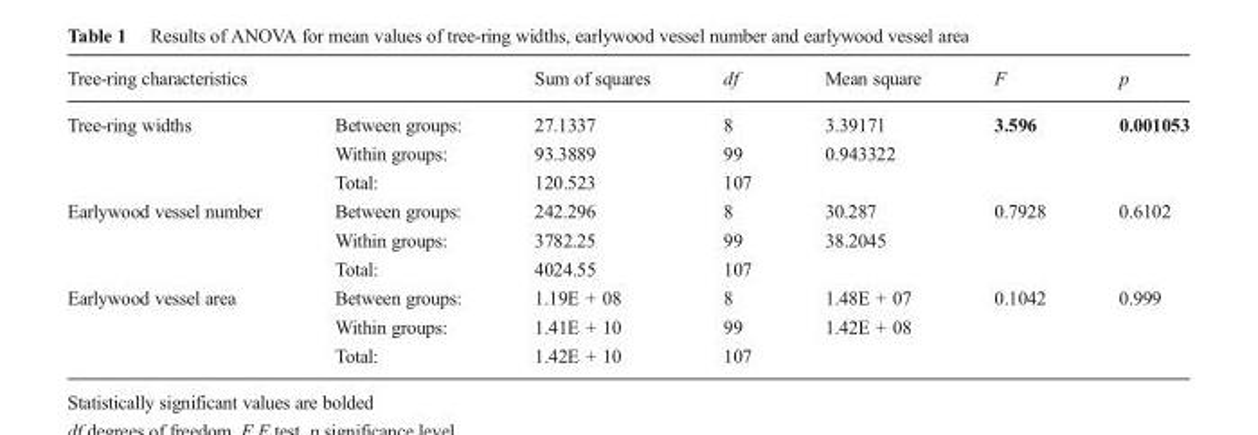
<table><thead><tr><td>Tree-ring characteristics</td><td></td><td>Sum of squares</td><td>df</td><td>Mean square</td><td>F</td><td>p</td></tr></thead><tbody><tr><td rowspan="3">Tree-ring widths</td><td>Between groups:</td><td>27.1337</td><td>8</td><td>3.39171</td><td>3.596</td><td>0.001053</td></tr><tr><td>Within groups:</td><td>93.3889</td><td>99</td><td>0.943322</td><td></td><td></td></tr><tr><td>Total:</td><td>120.523</td><td>107</td><td></td><td></td><td></td></tr><tr><td rowspan="3">Earlywood vessel number</td><td>Between groups:</td><td>242.296</td><td>8</td><td>30.287</td><td>0.7928</td><td>0.6102</td></tr><tr><td>Within groups:</td><td>3782.25</td><td>99</td><td>38.2045</td><td></td><td></td></tr><tr><td>Total:</td><td>4024.55</td><td>107</td><td></td><td></td><td></td></tr><tr><td rowspan="3">Earlywood vessel area</td><td>Between groups:</td><td>1.19E + 08</td><td>8</td><td>1.48E + 07</td><td>0.1042</td><td>0.999</td></tr><tr><td>Within groups:</td><td>1.41E + 10</td><td>99</td><td>1.42E + 08</td><td></td><td></td></tr><tr><td>Total:</td><td>1.42E + 10</td><td>107</td><td></td><td></td><td></td></tr></tbody></table>